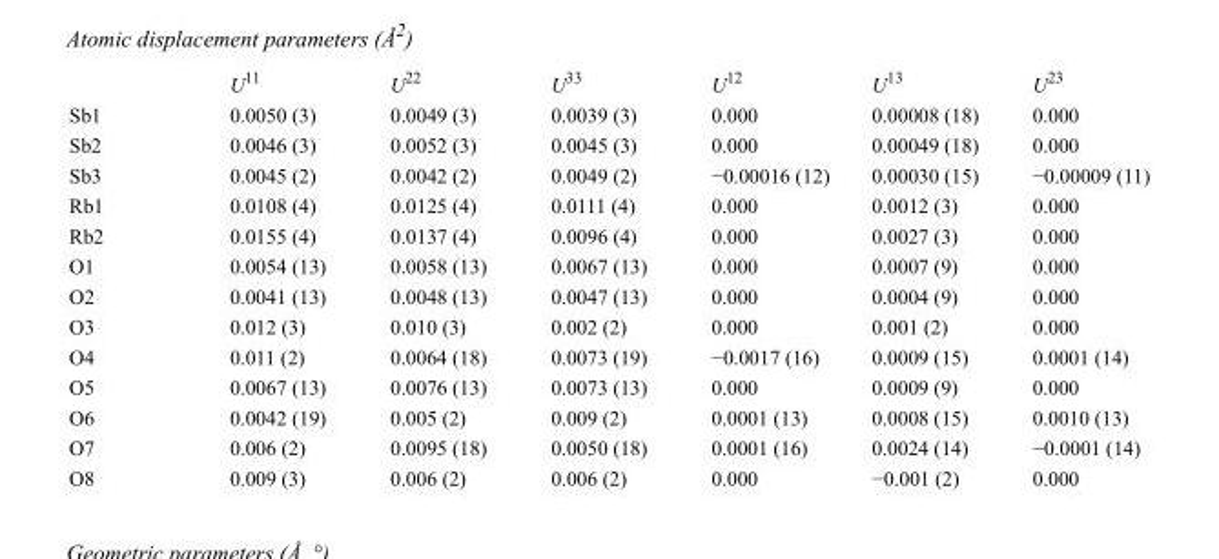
<table><thead><tr><td></td><td>U<sup>11</sup></td><td>U<sup>22</sup></td><td>U<sup>33</sup></td><td>U<sup>12</sup></td><td>U<sup>13</sup></td><td>U<sup>23</sup></td></tr></thead><tbody><tr><td>Sb1</td><td>0.0050 (3)</td><td>0.0049 (3)</td><td>0.0039 (3)</td><td>0.000</td><td>0.00008 (18)</td><td>0.000</td></tr><tr><td>Sb2</td><td>0.0046 (3)</td><td>0.0052 (3)</td><td>0.0045 (3)</td><td>0.000</td><td>0.00049 (18)</td><td>0.000</td></tr><tr><td>Sb3</td><td>0.0045 (2)</td><td>0.0042 (2)</td><td>0.0049 (2)</td><td>−0.00016 (12)</td><td>0.00030 (15)</td><td>−0.00009 (11)</td></tr><tr><td>Rb1</td><td>0.0108 (4)</td><td>0.0125 (4)</td><td>0.0111 (4)</td><td>0.000</td><td>0.0012 (3)</td><td>0.000</td></tr><tr><td>Rb2</td><td>0.0155 (4)</td><td>0.0137 (4)</td><td>0.0096 (4)</td><td>0.000</td><td>0.0027 (3)</td><td>0.000</td></tr><tr><td>O1</td><td>0.0054 (13)</td><td>0.0058 (13)</td><td>0.0067 (13)</td><td>0.000</td><td>0.0007 (9)</td><td>0.000</td></tr><tr><td>O2</td><td>0.0041 (13)</td><td>0.0048 (13)</td><td>0.0047 (13)</td><td>0.000</td><td>0.0004 (9)</td><td>0.000</td></tr><tr><td>O3</td><td>0.012 (3)</td><td>0.010 (3)</td><td>0.002 (2)</td><td>0.000</td><td>0.001 (2)</td><td>0.000</td></tr><tr><td>O4</td><td>0.011 (2)</td><td>0.0064 (18)</td><td>0.0073 (19)</td><td>−0.0017 (16)</td><td>0.0009 (15)</td><td>0.0001 (14)</td></tr><tr><td>O5</td><td>0.0067 (13)</td><td>0.0076 (13)</td><td>0.0073 (13)</td><td>0.000</td><td>0.0009 (9)</td><td>0.000</td></tr><tr><td>O6</td><td>0.0042 (19)</td><td>0.005 (2)</td><td>0.009 (2)</td><td>0.0001 (13)</td><td>0.0008 (15)</td><td>0.0010 (13)</td></tr><tr><td>O7</td><td>0.006 (2)</td><td>0.0095 (18)</td><td>0.0050 (18)</td><td>0.0001 (16)</td><td>0.0024 (14)</td><td>−0.0001 (14)</td></tr><tr><td>O8</td><td>0.009 (3)</td><td>0.006 (2)</td><td>0.006 (2)</td><td>0.000</td><td>−0.001 (2)</td><td>0.000</td></tr></tbody></table>